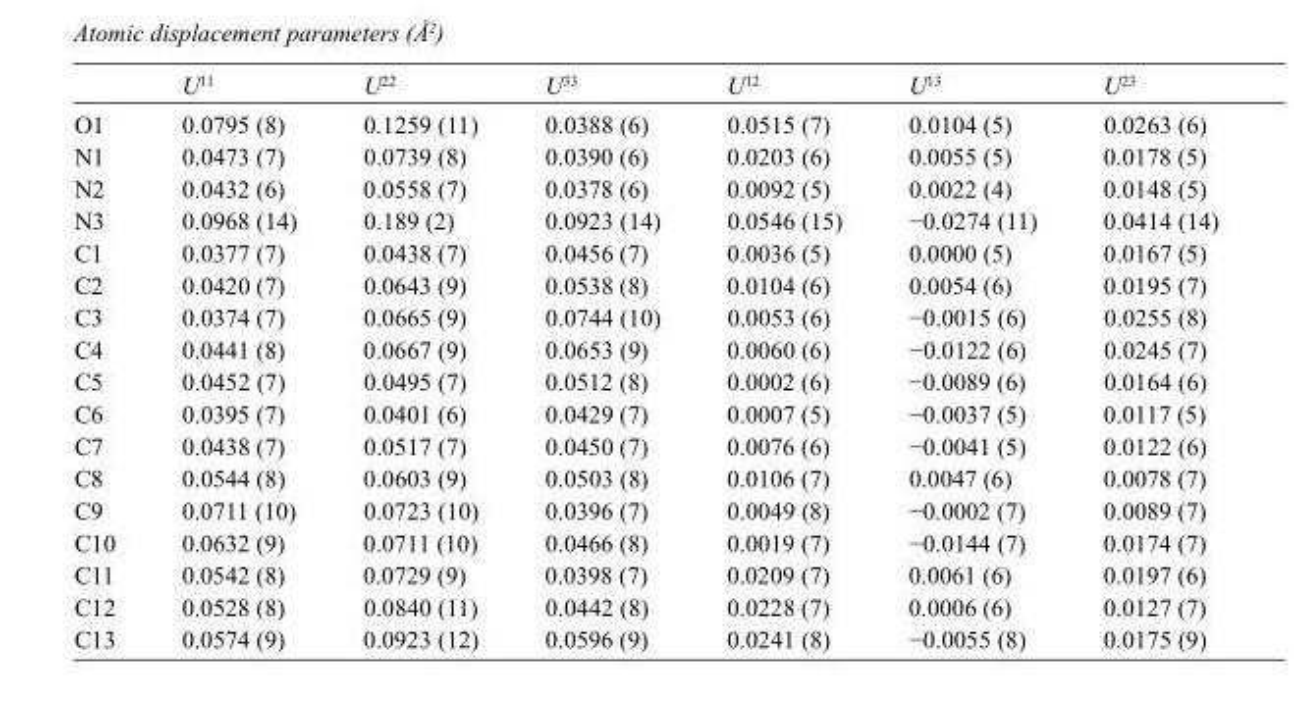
<table><thead><tr><td></td><td>U<sup>11</sup></td><td>U<sup>22</sup></td><td>U<sup>33</sup></td><td>U<sup>12</sup></td><td>U<sup>13</sup></td><td>U<sup>23</sup></td></tr></thead><tbody><tr><td>O1</td><td>0.0795 (8)</td><td>0.1259 (11)</td><td>0.0388 (6)</td><td>0.0515 (7)</td><td>0.0104 (5)</td><td>0.0263 (6)</td></tr><tr><td>N1</td><td>0.0473 (7)</td><td>0.0739 (8)</td><td>0.0390 (6)</td><td>0.0203 (6)</td><td>0.0055 (5)</td><td>0.0178 (5)</td></tr><tr><td>N2</td><td>0.0432 (6)</td><td>0.0558 (7)</td><td>0.0378 (6)</td><td>0.0092 (5)</td><td>0.0022 (4)</td><td>0.0148 (5)</td></tr><tr><td>N3</td><td>0.0968 (14)</td><td>0.189 (2)</td><td>0.0923 (14)</td><td>0.0546 (15)</td><td>−0.0274 (11)</td><td>0.0414 (14)</td></tr><tr><td>C1</td><td>0.0377 (7)</td><td>0.0438 (7)</td><td>0.0456 (7)</td><td>0.0036 (5)</td><td>0.0000 (5)</td><td>0.0167 (5)</td></tr><tr><td>C2</td><td>0.0420 (7)</td><td>0.0643 (9)</td><td>0.0538 (8)</td><td>0.0104 (6)</td><td>0.0054 (6)</td><td>0.0195 (7)</td></tr><tr><td>C3</td><td>0.0374 (7)</td><td>0.0665 (9)</td><td>0.0744 (10)</td><td>0.0053 (6)</td><td>−0.0015 (6)</td><td>0.0255 (8)</td></tr><tr><td>C4</td><td>0.0441 (8)</td><td>0.0667 (9)</td><td>0.0653 (9)</td><td>0.0060 (6)</td><td>−0.0122 (6)</td><td>0.0245 (7)</td></tr><tr><td>C5</td><td>0.0452 (7)</td><td>0.0495 (7)</td><td>0.0512 (8)</td><td>0.0002 (6)</td><td>−0.0089 (6)</td><td>0.0164 (6)</td></tr><tr><td>C6</td><td>0.0395 (7)</td><td>0.0401 (6)</td><td>0.0429 (7)</td><td>0.0007 (5)</td><td>−0.0037 (5)</td><td>0.0117 (5)</td></tr><tr><td>C7</td><td>0.0438 (7)</td><td>0.0517 (7)</td><td>0.0450 (7)</td><td>0.0076 (6)</td><td>−0.0041 (5)</td><td>0.0122 (6)</td></tr><tr><td>C8</td><td>0.0544 (8)</td><td>0.0603 (9)</td><td>0.0503 (8)</td><td>0.0106 (7)</td><td>0.0047 (6)</td><td>0.0078 (7)</td></tr><tr><td>C9</td><td>0.0711 (10)</td><td>0.0723 (10)</td><td>0.0396 (7)</td><td>0.0049 (8)</td><td>−0.0002 (7)</td><td>0.0089 (7)</td></tr><tr><td>C10</td><td>0.0632 (9)</td><td>0.0711 (10)</td><td>0.0466 (8)</td><td>0.0019 (7)</td><td>−0.0144 (7)</td><td>0.0174 (7)</td></tr><tr><td>C11</td><td>0.0542 (8)</td><td>0.0729 (9)</td><td>0.0398 (7)</td><td>0.0209 (7)</td><td>0.0061 (6)</td><td>0.0197 (6)</td></tr><tr><td>C12</td><td>0.0528 (8)</td><td>0.0840 (11)</td><td>0.0442 (8)</td><td>0.0228 (7)</td><td>0.0006 (6)</td><td>0.0127 (7)</td></tr><tr><td>C13</td><td>0.0574 (9)</td><td>0.0923 (12)</td><td>0.0596 (9)</td><td>0.0241 (8)</td><td>−0.0055 (8)</td><td>0.0175 (9)</td></tr></tbody></table>